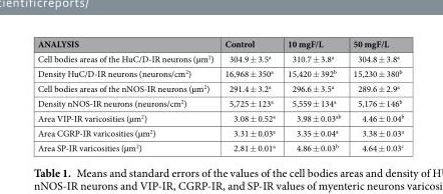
<table><thead><tr><td>ANALYSIS</td><td>Control</td><td>10 mgF/L</td><td>50 mgF/L</td></tr></thead><tbody><tr><td>Cell bodies areas of the HuC/D-IR neurons (µm<sup>2</sup>)</td><td>304.9 ± 3.5<sup>a</sup></td><td>310.7 ± 3.8<sup>a</sup></td><td>304.8 ± 3.8<sup>a</sup></td></tr><tr><td>Density HuC/D-IR neurons (neurons/cm<sup>2</sup>)</td><td>16,968 ± 350<sup>a</sup></td><td>15,420 ± 392<sup>b</sup></td><td>15,230 ± 380<sup>b</sup></td></tr><tr><td>Cell bodies areas of the nNOS-IR neurons (µm<sup>2</sup>)</td><td>291.4 ± 3.2<sup>a</sup></td><td>296.6 ± 3.5<sup>a</sup></td><td>289.6 ± 2.9<sup>a</sup></td></tr><tr><td>Density nNOS-IR neurons (neurons/cm<sup>2</sup>)</td><td>5,725 ± 123<sup>a</sup></td><td>5,559 ± 134<sup>a</sup></td><td>5,176 ± 146<sup>b</sup></td></tr><tr><td>Area VIP-IR varicosities (µm<sup>2</sup>)</td><td>3.08 ± 0.52<sup>a</sup></td><td>3.98 ± 0.03<sup>ab</sup></td><td>4.46 ± 0.04<sup>b</sup></td></tr><tr><td>Area CGRP-IR varicosities (µm<sup>2</sup>)</td><td>3.31 ± 0.03<sup>a</sup></td><td>3.35 ± 0.04<sup>a</sup></td><td>3.38 ± 0.03<sup>a</sup></td></tr><tr><td>Area SP-IR varicosities (µm<sup>2</sup>)</td><td>2.81 ± 0.01<sup>a</sup></td><td>4.86 ± 0.03<sup>b</sup></td><td>4.64 ± 0.03<sup>c</sup></td></tr></tbody></table>